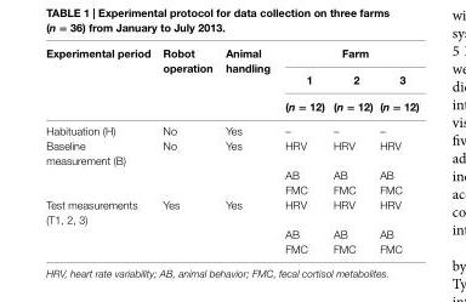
<table><thead><tr><td rowspan="3">experimental period</td><td rowspan="3">robot operation</td><td rowspan="3">animal handling</td><td colspan="3">Farm</td></tr><tr><td rowspan="2">1 (n = 12)</td><td rowspan="2">2 (n = 12)</td><td rowspan="2">3 (n = 12)</td></tr><tr></tr></thead><tbody><tr><td>Habituation (H)</td><td>No</td><td>Yes</td><td>–</td><td>–</td><td>–</td></tr><tr><td rowspan="3">Baseline measurement (B)</td><td>No</td><td>Yes</td><td>HRV</td><td>HRV</td><td>HRV</td></tr><tr><td></td><td></td><td>AB</td><td>AB</td><td>AB</td></tr><tr><td></td><td></td><td>FMC</td><td>FMC</td><td>FMC</td></tr><tr><td rowspan="3">Test measurements (T1, 2, 3)</td><td>Yes</td><td>Yes</td><td>HRV</td><td>HRV</td><td>HRV</td></tr><tr><td></td><td></td><td>AB</td><td>AB</td><td>AB</td></tr><tr><td></td><td></td><td>FMC</td><td>FMC</td><td>FMC</td></tr></tbody></table>